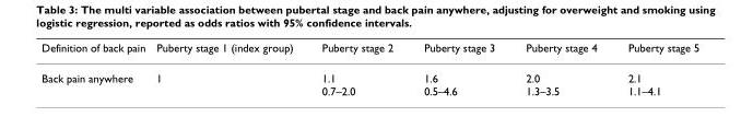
<table><thead><tr><td>Definition of back pain</td><td>Puberty stage 1 (index group)</td><td>Puberty stage 2</td><td>Puberty stage 3</td><td>Puberty stage 4</td><td>Puberty stage 5</td></tr></thead><tbody><tr><td>Back pain anywhere</td><td>1</td><td>1.1 0.7–2.0</td><td>1.6 0.5–4.6</td><td>2.0 1.3–3.5</td><td>2.1 1.1–4.1</td></tr></tbody></table>